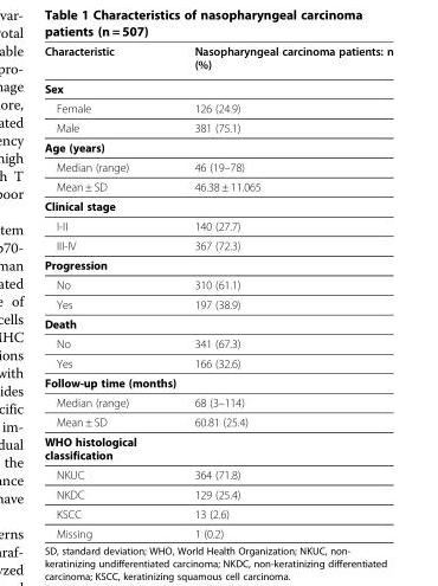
<table><thead><tr><td>Characteristic</td><td>Nasopharyngeal carcinoma patients: n (%)</td></tr></thead><tbody><tr><td colspan="2">Sex</td></tr><tr><td>Female</td><td>126 (24.9)</td></tr><tr><td>Male</td><td>381 (75.1)</td></tr><tr><td colspan="2">Age (years)</td></tr><tr><td>Median (range)</td><td>46 (19–78)</td></tr><tr><td>Mean ± SD</td><td>46.38 ± 11.065</td></tr><tr><td colspan="2">Clinical stage</td></tr><tr><td>I-II</td><td>140 (27.7)</td></tr><tr><td>III-IV</td><td>367 (72.3)</td></tr><tr><td colspan="2">Progression</td></tr><tr><td>No</td><td>310 (61.1)</td></tr><tr><td>Yes</td><td>197 (38.9)</td></tr><tr><td colspan="2">Death</td></tr><tr><td>No</td><td>341 (67.3)</td></tr><tr><td>Yes</td><td>166 (32.6)</td></tr><tr><td colspan="2">Follow-up time (months)</td></tr><tr><td>Median (range)</td><td>68 (3–114)</td></tr><tr><td>Mean ± SD</td><td>60.81 (25.4)</td></tr><tr><td colspan="2">WHO histological classification</td></tr><tr><td>NKUC</td><td>364 (71.8)</td></tr><tr><td>NKDC</td><td>129 (25.4)</td></tr><tr><td>KSCC</td><td>13 (2.6)</td></tr><tr><td>Missing</td><td>1 (0.2)</td></tr></tbody></table>